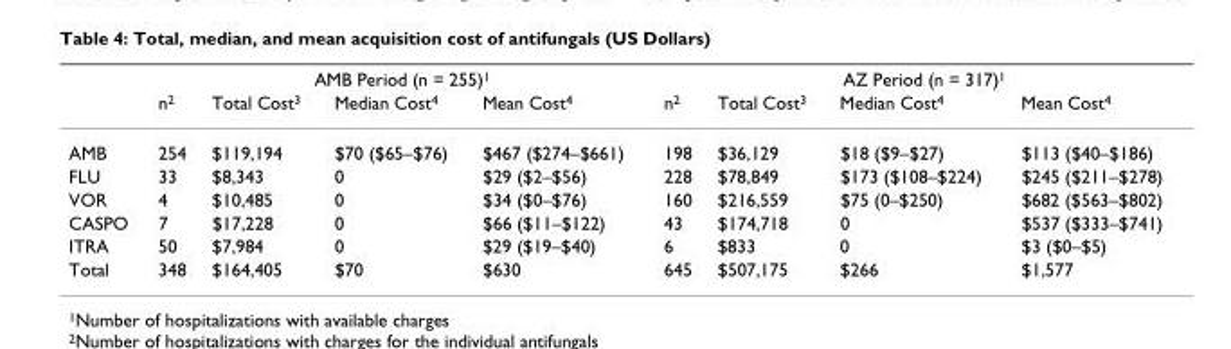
<table><thead><tr><td rowspan="2"></td><td colspan="4">AMB Period (n = 255)<sup>1</sup></td><td colspan="4">AZ Period (n = 317)<sup>1</sup></td></tr><tr><td>n<sup>2</sup></td><td>Total Cost<sup>3</sup></td><td>Median Cost<sup>4</sup></td><td>Mean Cost<sup>4</sup></td><td>n<sup>2</sup></td><td>Total Cost<sup>3</sup></td><td>Median Cost<sup>4</sup></td><td>Mean Cost<sup>4</sup></td></tr></thead><tbody><tr><td>AMB</td><td>254</td><td>$119,194</td><td>$70 ($65–$76)</td><td>$467 ($274–$661)</td><td>198</td><td>$36,129</td><td>$18 ($9–$27)</td><td>$113 ($40–$186)</td></tr><tr><td>FLU</td><td>33</td><td>$8,343</td><td>0</td><td>$29 ($2–$56)</td><td>228</td><td>$78,849</td><td>$173 ($108–$224)</td><td>$245 ($211–$278)</td></tr><tr><td>VOR</td><td>4</td><td>$10,485</td><td>0</td><td>$34 ($0–$76)</td><td>160</td><td>$216,559</td><td>$75 (0–$250)</td><td>$682 ($563–$802)</td></tr><tr><td>CASPO</td><td>7</td><td>$17,228</td><td>0</td><td>$66 ($11–$122)</td><td>43</td><td>$174,718</td><td>0</td><td>$537 ($333–$741)</td></tr><tr><td>ITRA</td><td>50</td><td>$7,984</td><td>0</td><td>$29 ($19–$40)</td><td>6</td><td>$833</td><td>0</td><td>$3 ($0–$5)</td></tr><tr><td>Total</td><td>348</td><td>$164,405</td><td>$70</td><td>$630</td><td>645</td><td>$507,175</td><td>$266</td><td>$1,577</td></tr></tbody></table>